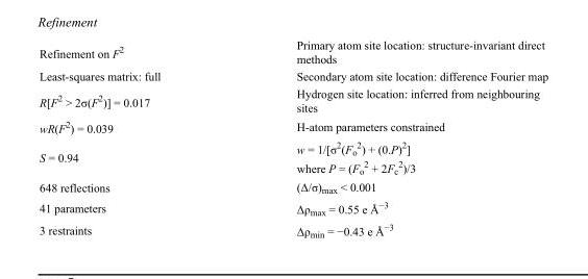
<table><tbody><tr><td>Refinement on F<sup>2</sup></td><td>Primary atom site location: structure-invariant direct methods</td></tr><tr><td>Least-squares matrix: full</td><td>Secondary atom site location: difference Fourier map</td></tr><tr><td>R[F<sup>2</sup> &gt; 2σ(F<sup>2</sup>)] = 0.017</td><td>Hydrogen site location: inferred from neighbouring sites</td></tr><tr><td>wR(F<sup>2</sup>) = 0.039</td><td>H-atom parameters constrained</td></tr><tr><td>S = 0.94</td><td>w = 1/[σ<sup>2</sup>(F<sub>o</sub> <sup>2</sup>) + (0.P)<sup>2</sup>] where P = (F<sub>o</sub> <sup>2</sup> + 2F<sub>c</sub> <sup>2</sup>)/3</td></tr><tr><td>648 reflections</td><td>(Δ/σ)<sub>max</sub> &lt; 0.001</td></tr><tr><td>41 parameters</td><td>Δρ<sub>max</sub> = 0.55 e Å<sup>−3</sup></td></tr><tr><td>3 restraints</td><td>Δρ<sub>min</sub> = −0.43 e Å<sup>−3</sup></td></tr></tbody></table>